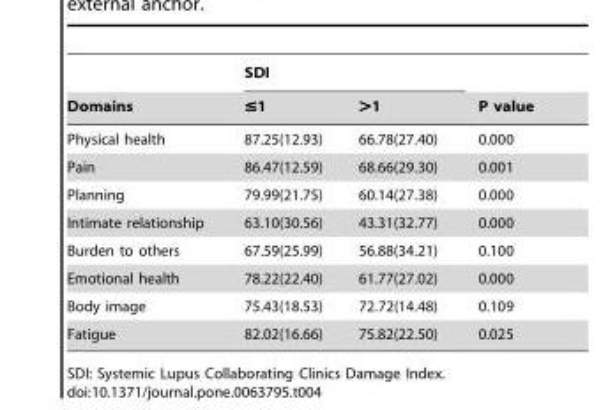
<table><thead><tr><td rowspan="2">Domains</td><td colspan="2">SDI</td><td rowspan="2">P value</td></tr><tr><td>≤1</td><td>&gt;1</td></tr></thead><tbody><tr><td>Physical health</td><td>87.25(12.93)</td><td>66.78(27.40)</td><td>0.000</td></tr><tr><td>Pain</td><td>86.47(12.59)</td><td>68.66(29.30)</td><td>0.001</td></tr><tr><td>Planning</td><td>79.99(21.75)</td><td>60.14(27.38)</td><td>0.000</td></tr><tr><td>Intimate relationship</td><td>63.10(30.56)</td><td>43.31(32.77)</td><td>0.000</td></tr><tr><td>Burden to others</td><td>67.59(25.99)</td><td>56.88(34.21)</td><td>0.100</td></tr><tr><td>Emotional health</td><td>78.22(22.40)</td><td>61.77(27.02)</td><td>0.000</td></tr><tr><td>Body image</td><td>75.43(18.53)</td><td>72.72(14.48)</td><td>0.109</td></tr><tr><td>Fatigue</td><td>82.02(16.66)</td><td>75.82(22.50)</td><td>0.025</td></tr></tbody></table>